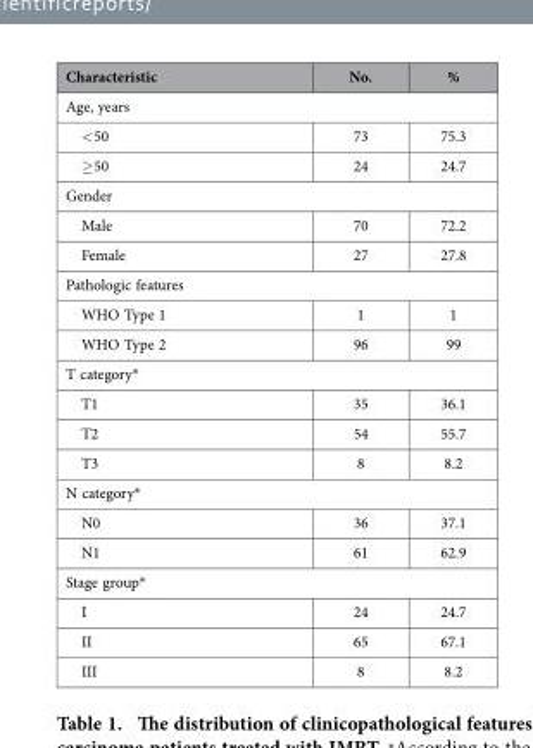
<table><thead><tr><td>Characteristic</td><td>No.</td><td>%</td></tr></thead><tbody><tr><td colspan="3">Age, years</td></tr><tr><td>&lt; 50</td><td>73</td><td>75.3</td></tr><tr><td>≥ 50</td><td>24</td><td>24.7</td></tr><tr><td colspan="3">Gender</td></tr><tr><td>Male</td><td>70</td><td>72.2</td></tr><tr><td>Female</td><td>27</td><td>27.8</td></tr><tr><td colspan="3">Pathologic features</td></tr><tr><td>WHO Type 1</td><td>1</td><td>1</td></tr><tr><td>WHO Type 2</td><td>96</td><td>99</td></tr><tr><td colspan="3">T category✳</td></tr><tr><td>T1</td><td>35</td><td>36.1</td></tr><tr><td>T2</td><td>54</td><td>55.7</td></tr><tr><td>T3</td><td>8</td><td>8.2</td></tr><tr><td colspan="3">N category✳</td></tr><tr><td>N0</td><td>36</td><td>37.1</td></tr><tr><td>N1</td><td>61</td><td>62.9</td></tr><tr><td colspan="3">Stage group✳</td></tr><tr><td>I</td><td>24</td><td>24.7</td></tr><tr><td>II</td><td>65</td><td>67.1</td></tr><tr><td>III</td><td>8</td><td>8.2</td></tr></tbody></table>